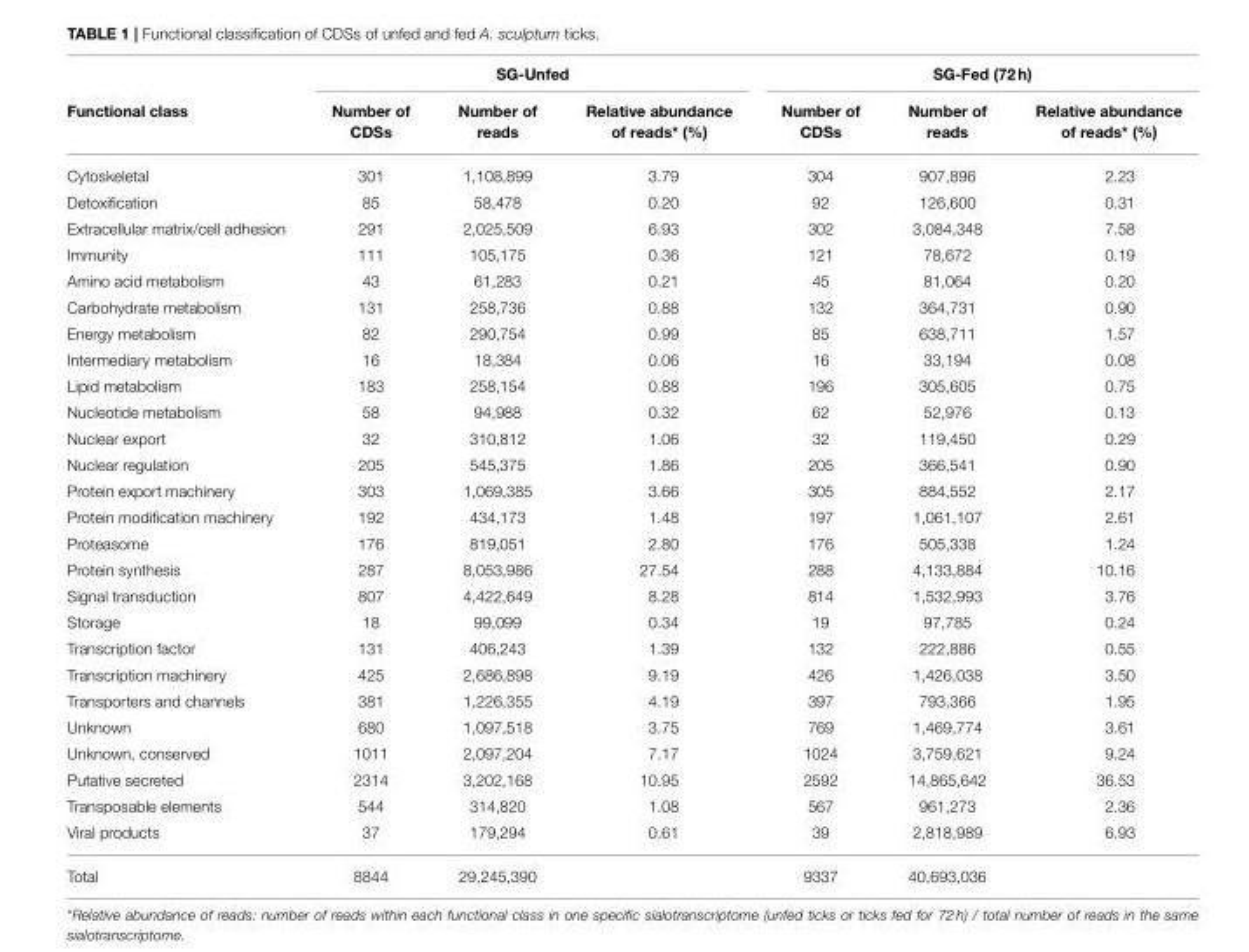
<table><thead><tr><td rowspan="2">Functional class</td><td colspan="3">SG-Unfed</td><td colspan="3">SG-Fed (72 h)</td></tr><tr><td>Number of CDSs</td><td>Number of reads</td><td>Relative abundance of reads* (%)</td><td>Number of CDSs</td><td>Number of reads</td><td>Relative abundance of reads* (%)</td></tr></thead><tbody><tr><td>Cytoskeletal</td><td>301</td><td>1,108,899</td><td>3.79</td><td>304</td><td>907,896</td><td>2.23</td></tr><tr><td>Detoxification</td><td>85</td><td>58,478</td><td>0.20</td><td>92</td><td>126,600</td><td>0.31</td></tr><tr><td>Extracellular matrix/cell adhesion</td><td>291</td><td>2,025,509</td><td>6.93</td><td>302</td><td>3,084,348</td><td>7.58</td></tr><tr><td>Immunity</td><td>111</td><td>105,175</td><td>0.36</td><td>121</td><td>78,672</td><td>0.19</td></tr><tr><td>Amino acid metabolism</td><td>43</td><td>61,283</td><td>0.21</td><td>45</td><td>81,064</td><td>0.20</td></tr><tr><td>Carbohydrate metabolism</td><td>131</td><td>258,736</td><td>0.88</td><td>132</td><td>364,731</td><td>0.90</td></tr><tr><td>Energy metabolism</td><td>82</td><td>290,754</td><td>0.99</td><td>85</td><td>638,711</td><td>1.57</td></tr><tr><td>Intermediary metabolism</td><td>16</td><td>18,384</td><td>0.06</td><td>16</td><td>33,194</td><td>0.08</td></tr><tr><td>Lipid metabolism</td><td>183</td><td>258,154</td><td>0.88</td><td>196</td><td>305,605</td><td>0.75</td></tr><tr><td>Nucleotide metabolism</td><td>58</td><td>94,988</td><td>0.32</td><td>62</td><td>52,976</td><td>0.13</td></tr><tr><td>Nuclear export</td><td>32</td><td>310,812</td><td>1.06</td><td>32</td><td>119,450</td><td>0.29</td></tr><tr><td>Nuclear regulation</td><td>205</td><td>545,375</td><td>1.86</td><td>205</td><td>366,541</td><td>0.90</td></tr><tr><td>Protein export machinery</td><td>303</td><td>1,069,385</td><td>3.66</td><td>305</td><td>884,552</td><td>2.17</td></tr><tr><td>Protein modification machinery</td><td>192</td><td>434,173</td><td>1.48</td><td>197</td><td>1,061,107</td><td>2.61</td></tr><tr><td>Proteasome</td><td>176</td><td>819,051</td><td>2.80</td><td>176</td><td>505,338</td><td>1.24</td></tr><tr><td>Protein synthesis</td><td>287</td><td>8,053,986</td><td>27.54</td><td>288</td><td>4,133,884</td><td>10.16</td></tr><tr><td>Signal transduction</td><td>807</td><td>4,422,649</td><td>8.28</td><td>814</td><td>1,532,993</td><td>3.76</td></tr><tr><td>Storage</td><td>18</td><td>99,099</td><td>0.34</td><td>19</td><td>97,785</td><td>0.24</td></tr><tr><td>Transcription factor</td><td>131</td><td>406,243</td><td>1.39</td><td>132</td><td>222,886</td><td>0.55</td></tr><tr><td>Transcription machinery</td><td>425</td><td>2,686,898</td><td>9.19</td><td>426</td><td>1,426,038</td><td>3.50</td></tr><tr><td>Transporters and channels</td><td>381</td><td>1,226,355</td><td>4.19</td><td>397</td><td>793,366</td><td>1.95</td></tr><tr><td>Unknown</td><td>680</td><td>1,097,518</td><td>3.75</td><td>769</td><td>1,469,774</td><td>3.61</td></tr><tr><td>Unknown, conserved</td><td>1011</td><td>2,097,204</td><td>7.17</td><td>1024</td><td>3,759,621</td><td>9.24</td></tr><tr><td>Putative secreted</td><td>2314</td><td>3,202,168</td><td>10.95</td><td>2592</td><td>14,865,642</td><td>36.53</td></tr><tr><td>Transposable elements</td><td>544</td><td>314,820</td><td>1.08</td><td>567</td><td>961,273</td><td>2.36</td></tr><tr><td>Viral products</td><td>37</td><td>179,294</td><td>0.61</td><td>39</td><td>2,818,989</td><td>6.93</td></tr><tr><td>Total</td><td>8844</td><td>29,245,390</td><td></td><td>9337</td><td>40,693,036</td><td></td></tr></tbody></table>